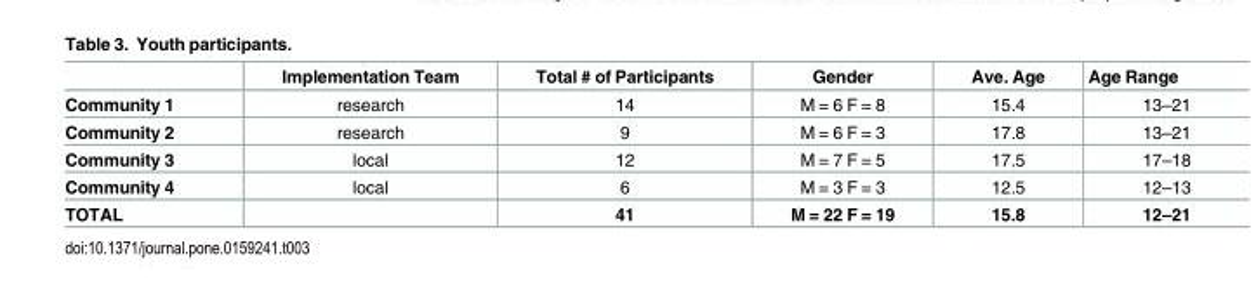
<table><thead><tr><td></td><td>Implementation Team</td><td>Total # of Participants</td><td>Gender</td><td>Ave. Age</td><td>Age Range</td></tr></thead><tbody><tr><td>Community 1</td><td>research</td><td>14</td><td>M = 6 F = 8</td><td>15.4</td><td>13–21</td></tr><tr><td>Community 2</td><td>research</td><td>9</td><td>M = 6 F = 3</td><td>17.8</td><td>13–21</td></tr><tr><td>Community 3</td><td>local</td><td>12</td><td>M = 7 F = 5</td><td>17.5</td><td>17–18</td></tr><tr><td>Community 4</td><td>local</td><td>6</td><td>M = 3 F = 3</td><td>12.5</td><td>12–13</td></tr><tr><td>TOTAL</td><td></td><td>41</td><td>M = 22 F = 19</td><td>15.8</td><td>12–21</td></tr></tbody></table>